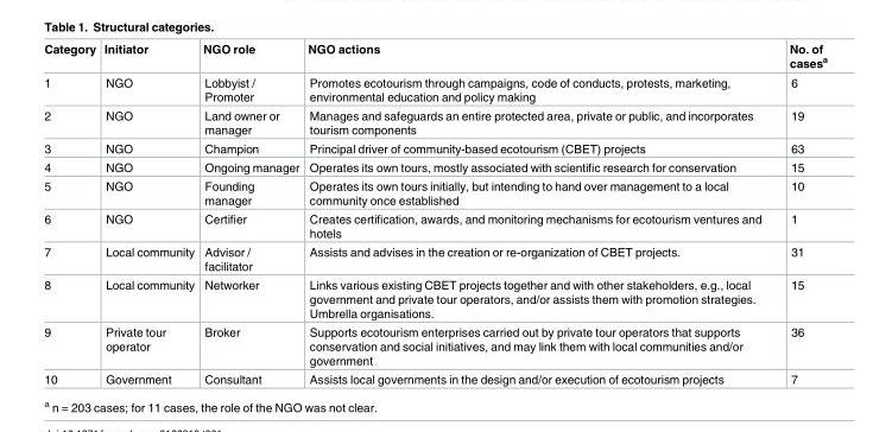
<table><thead><tr><td>Category</td><td>Initiator</td><td>NGO role</td><td>NGO actions</td><td>No. of cases<sup>a</sup></td></tr></thead><tbody><tr><td>1</td><td>NGO</td><td>Lobbyist / Promoter</td><td>Promotes ecotourism through campaigns, code of conducts, protests, marketing, environmental education and policy making</td><td>6</td></tr><tr><td>2</td><td>NGO</td><td>Land owner or manager</td><td>Manages and safeguards an entire protected area, private or public, and incorporates tourism components</td><td>19</td></tr><tr><td>3</td><td>NGO</td><td>Champion</td><td>Principal driver of community-based ecotourism (CBET) projects</td><td>63</td></tr><tr><td>4</td><td>NGO</td><td>Ongoing manager</td><td>Operates its own tours, mostly associated with scientific research for conservation</td><td>15</td></tr><tr><td>5</td><td>NGO</td><td>Founding manager</td><td>Operates its own tours initially, but intending to hand over management to a local community once established</td><td>10</td></tr><tr><td>6</td><td>NGO</td><td>Certifier</td><td>Creates certification, awards, and monitoring mechanisms for ecotourism ventures and hotels</td><td>1</td></tr><tr><td>7</td><td>Local community</td><td>Advisor / facilitator</td><td>Assists and advises in the creation or re-organization of CBET projects.</td><td>31</td></tr><tr><td>8</td><td>Local community</td><td>Networker</td><td>Links various existing CBET projects together and with other stakeholders, e.g., local government and private tour operators, and/or assists them with promotion strategies. Umbrella organisations.</td><td>15</td></tr><tr><td>9</td><td>Private tour operator</td><td>Broker</td><td>Supports ecotourism enterprises carried out by private tour operators that supports conservation and social initiatives, and may link them with local communities and/or government</td><td>36</td></tr><tr><td>10</td><td>Government</td><td>Consultant</td><td>Assists local governments in the design and/or execution of ecotourism projects</td><td>7</td></tr></tbody></table>